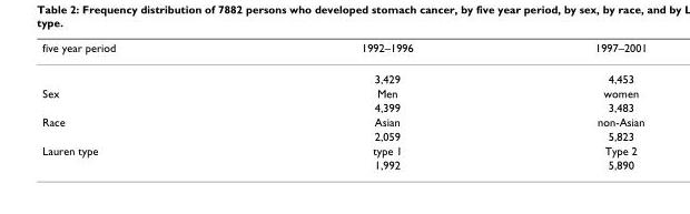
<table><thead><tr><td>five year period</td><td>1992–1996</td><td>1997–2001</td></tr></thead><tbody><tr><td></td><td>3,429</td><td>4,453</td></tr><tr><td rowspan="2">Sex</td><td>Men</td><td>women</td></tr><tr><td>4,399</td><td>3,483</td></tr><tr><td rowspan="2">Race</td><td>Asian</td><td>non-Asian</td></tr><tr><td>2,059</td><td>5,823</td></tr><tr><td rowspan="2">Lauren type</td><td>type 1</td><td>Type 2</td></tr><tr><td>1,992</td><td>5,890</td></tr></tbody></table>